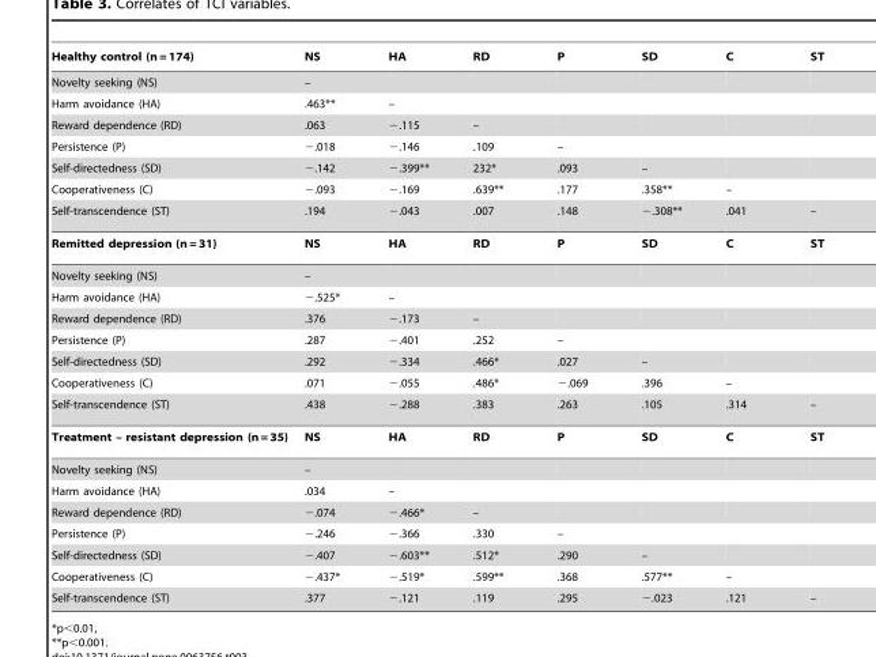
<table><thead><tr><td>Healthy control (n = 174)</td><td>NS</td><td>HA</td><td>RD</td><td>P</td><td>SD</td><td>C</td><td>ST</td></tr></thead><tbody><tr><td>Novelty seeking (NS)</td><td>–</td><td></td><td></td><td></td><td></td><td></td><td></td></tr><tr><td>Harm avoidance (HA)</td><td>.463**</td><td>–</td><td></td><td></td><td></td><td></td><td></td></tr><tr><td>Reward dependence (RD)</td><td>.063</td><td>−.115</td><td>–</td><td></td><td></td><td></td><td></td></tr><tr><td>Persistence (P)</td><td>−.018</td><td>−.146</td><td>.109</td><td>–</td><td></td><td></td><td></td></tr><tr><td>Self-directedness (SD)</td><td>−.142</td><td>−.399**</td><td>232*</td><td>.093</td><td>–</td><td></td><td></td></tr><tr><td>Cooperativeness (C)</td><td>−.093</td><td>−.169</td><td>.639**</td><td>.177</td><td>.358**</td><td>–</td><td></td></tr><tr><td>Self-transcendence (ST)</td><td>.194</td><td>−.043</td><td>.007</td><td>.148</td><td>−.308**</td><td>.041</td><td>–</td></tr><tr><td>Remitted depression (n = 31)</td><td>NS</td><td>HA</td><td>RD</td><td>P</td><td>SD</td><td>C</td><td>ST</td></tr><tr><td>Novelty seeking (NS)</td><td>–</td><td></td><td></td><td></td><td></td><td></td><td></td></tr><tr><td>Harm avoidance (HA)</td><td>−.525*</td><td>–</td><td></td><td></td><td></td><td></td><td></td></tr><tr><td>Reward dependence (RD)</td><td>.376</td><td>−.173</td><td>–</td><td></td><td></td><td></td><td></td></tr><tr><td>Persistence (P)</td><td>.287</td><td>−.401</td><td>.252</td><td>–</td><td></td><td></td><td></td></tr><tr><td>Self-directedness (SD)</td><td>.292</td><td>−.334</td><td>.466*</td><td>.027</td><td>–</td><td></td><td></td></tr><tr><td>Cooperativeness (C)</td><td>.071</td><td>−.055</td><td>.486*</td><td>−.069</td><td>.396</td><td>–</td><td></td></tr><tr><td>Self-transcendence (ST)</td><td>.438</td><td>−.288</td><td>.383</td><td>.263</td><td>.105</td><td>.314</td><td>–</td></tr><tr><td>Treatment – resistant depression (n = 35)</td><td>NS</td><td>HA</td><td>RD</td><td>P</td><td>SD</td><td>C</td><td>ST</td></tr><tr><td>Novelty seeking (NS)</td><td>–</td><td></td><td></td><td></td><td></td><td></td><td></td></tr><tr><td>Harm avoidance (HA)</td><td>.034</td><td>–</td><td></td><td></td><td></td><td></td><td></td></tr><tr><td>Reward dependence (RD)</td><td>−.074</td><td>−.466*</td><td>–</td><td></td><td></td><td></td><td></td></tr><tr><td>Persistence (P)</td><td>−.246</td><td>−.366</td><td>.330</td><td>–</td><td></td><td></td><td></td></tr><tr><td>Self-directedness (SD)</td><td>−.407</td><td>−.603**</td><td>.512*</td><td>.290</td><td>–</td><td></td><td></td></tr><tr><td>Cooperativeness (C)</td><td>−.437*</td><td>−.519*</td><td>.599**</td><td>.368</td><td>.577**</td><td>–</td><td></td></tr><tr><td>Self-transcendence (ST)</td><td>.377</td><td>−.121</td><td>.119</td><td>.295</td><td>−.023</td><td>.121</td><td>–</td></tr></tbody></table>